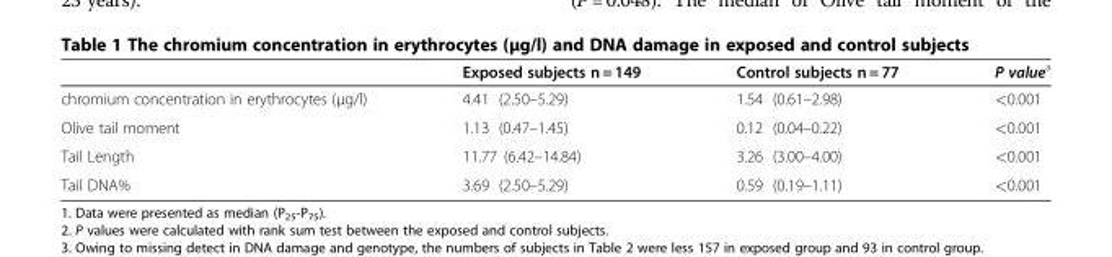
<table><thead><tr><td></td><td>Exposed subjects n = 149</td><td>Control subjects n = 77</td><td>P value<sup>a</sup></td></tr></thead><tbody><tr><td>chromium concentration in erythrocytes (μg/l)</td><td>4.41 (2.50–5.29)</td><td>1.54 (0.61–2.98)</td><td>&lt;0.001</td></tr><tr><td>Olive tail moment</td><td>1.13 (0.47–1.45)</td><td>0.12 (0.04–0.22)</td><td>&lt;0.001</td></tr><tr><td>Tail Length</td><td>11.77 (6.42–14.84)</td><td>3.26 (3.00–4.00)</td><td>&lt;0.001</td></tr><tr><td>Tail DNA%</td><td>3.69 (2.50–5.29)</td><td>0.59 (0.19–1.11)</td><td>&lt;0.001</td></tr></tbody></table>